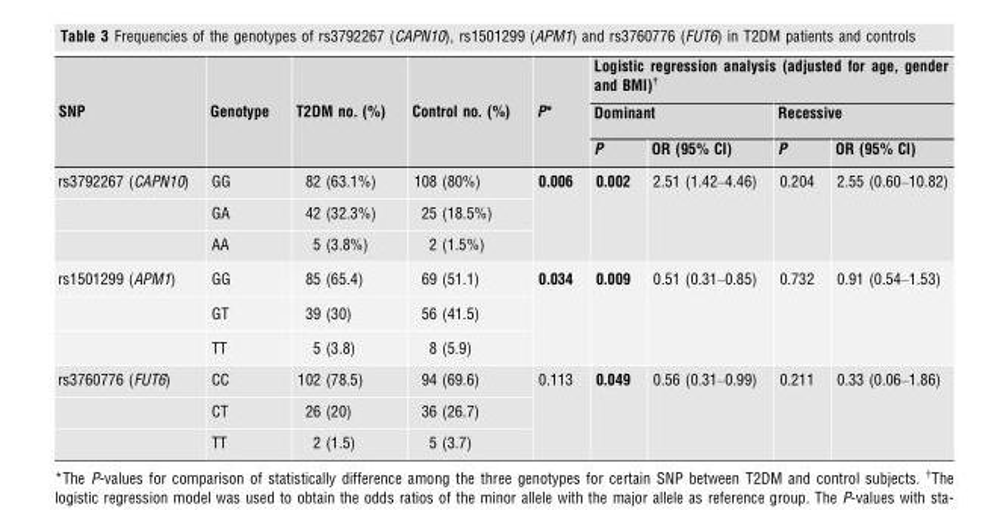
<table><thead><tr><td rowspan="3">SNP</td><td rowspan="3">Genotype</td><td rowspan="3">T2DM no. (%)</td><td rowspan="3">Control no. (%)</td><td rowspan="3">P*</td><td colspan="4">Logistic regression analysis (adjusted for age, gender and BMI)†</td></tr><tr><td colspan="2">Dominant</td><td colspan="2">Recessive</td></tr><tr><td>P</td><td>OR (95% CI)</td><td>P</td><td>OR (95% CI)</td></tr></thead><tbody><tr><td rowspan="3">rs3792267 (CAPN10)</td><td>GG</td><td>82 (63.1%)</td><td>108 (80%)</td><td rowspan="3">0.006</td><td rowspan="3">0.002</td><td rowspan="3">2.51 (1.42–4.46)</td><td rowspan="3">0.204</td><td rowspan="3">2.55 (0.60–10.82)</td></tr><tr><td>GA</td><td>42 (32.3%)</td><td>25 (18.5%)</td></tr><tr><td>AA</td><td>5 (3.8%)</td><td>2 (1.5%)</td></tr><tr><td rowspan="3">rs1501299 (APM1)</td><td>GG</td><td>85 (65.4)</td><td>69 (51.1)</td><td rowspan="3">0.034</td><td rowspan="3">0.009</td><td rowspan="3">0.51 (0.31–0.85)</td><td rowspan="3">0.732</td><td rowspan="3">0.91 (0.54–1.53)</td></tr><tr><td>GT</td><td>39 (30)</td><td>56 (41.5)</td></tr><tr><td>TT</td><td>5 (3.8)</td><td>8 (5.9)</td></tr><tr><td rowspan="3">rs3760776 (FUT6)</td><td>CC</td><td>102 (78.5)</td><td>94 (69.6)</td><td rowspan="3">0.113</td><td rowspan="3">0.049</td><td rowspan="3">0.56 (0.31–0.99)</td><td rowspan="3">0.211</td><td rowspan="3">0.33 (0.06–1.86)</td></tr><tr><td>CT</td><td>26 (20)</td><td>36 (26.7)</td></tr><tr><td>TT</td><td>2 (1.5)</td><td>5 (3.7)</td></tr></tbody></table>